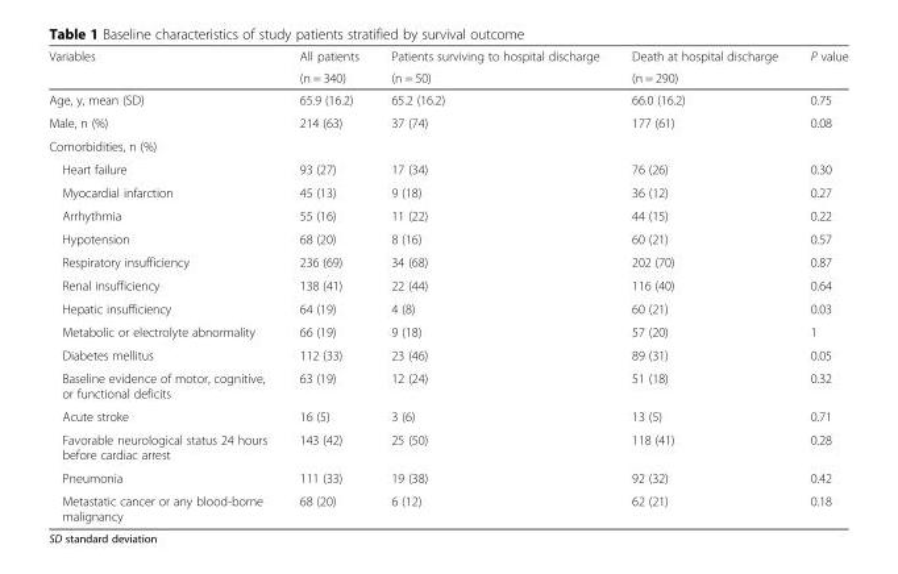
<table><thead><tr><td rowspan="2">Variables</td><td rowspan="2">All patients (n = 340)</td><td rowspan="2">Patients surviving to hospital discharge (n = 50)</td><td rowspan="2">Death at hospital discharge (n = 290)</td><td rowspan="2">P value</td></tr><tr></tr></thead><tbody><tr><td>Age, y, mean (SD)</td><td>65.9 (16.2)</td><td>65.2 (16.2)</td><td>66.0 (16.2)</td><td>0.75</td></tr><tr><td>Male, n (%)</td><td>214 (63)</td><td>37 (74)</td><td>177 (61)</td><td>0.08</td></tr><tr><td colspan="5">Comorbidities, n (%)</td></tr><tr><td>Heart failure</td><td>93 (27)</td><td>17 (34)</td><td>76 (26)</td><td>0.30</td></tr><tr><td>Myocardial infarction</td><td>45 (13)</td><td>9 (18)</td><td>36 (12)</td><td>0.27</td></tr><tr><td>Arrhythmia</td><td>55 (16)</td><td>11 (22)</td><td>44 (15)</td><td>0.22</td></tr><tr><td>Hypotension</td><td>68 (20)</td><td>8 (16)</td><td>60 (21)</td><td>0.57</td></tr><tr><td>Respiratory insufficiency</td><td>236 (69)</td><td>34 (68)</td><td>202 (70)</td><td>0.87</td></tr><tr><td>Renal insufficiency</td><td>138 (41)</td><td>22 (44)</td><td>116 (40)</td><td>0.64</td></tr><tr><td>Hepatic insufficiency</td><td>64 (19)</td><td>4 (8)</td><td>60 (21)</td><td>0.03</td></tr><tr><td>Metabolic or electrolyte abnormality</td><td>66 (19)</td><td>9 (18)</td><td>57 (20)</td><td>1</td></tr><tr><td>Diabetes mellitus</td><td>112 (33)</td><td>23 (46)</td><td>89 (31)</td><td>0.05</td></tr><tr><td>Baseline evidence of motor, cognitive, or functional deficits</td><td>63 (19)</td><td>12 (24)</td><td>51 (18)</td><td>0.32</td></tr><tr><td>Acute stroke</td><td>16 (5)</td><td>3 (6)</td><td>13 (5)</td><td>0.71</td></tr><tr><td>Favorable neurological status 24 hours before cardiac arrest</td><td>143 (42)</td><td>25 (50)</td><td>118 (41)</td><td>0.28</td></tr><tr><td>Pneumonia</td><td>111 (33)</td><td>19 (38)</td><td>92 (32)</td><td>0.42</td></tr><tr><td>Metastatic cancer or any blood-borne malignancy</td><td>68 (20)</td><td>6 (12)</td><td>62 (21)</td><td>0.18</td></tr></tbody></table>